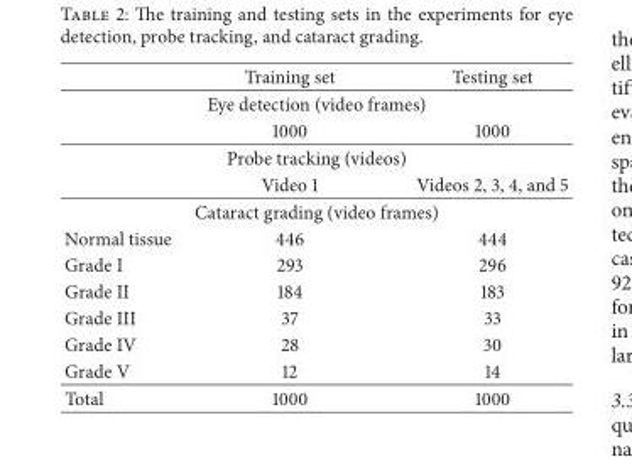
<table><thead><tr><td></td><td>Training set</td><td>Testing set</td></tr></thead><tbody><tr><td colspan="3">Eye detection (video frames)</td></tr><tr><td></td><td>1000</td><td>1000</td></tr><tr><td colspan="3">Probe tracking (videos)</td></tr><tr><td></td><td>Video 1</td><td>Videos 2, 3, 4, and 5</td></tr><tr><td colspan="3">Cataract grading (video frames)</td></tr><tr><td>Normal tissue</td><td>446</td><td>444</td></tr><tr><td>Grade I</td><td>293</td><td>296</td></tr><tr><td>Grade II</td><td>184</td><td>183</td></tr><tr><td>Grade III</td><td>37</td><td>33</td></tr><tr><td>Grade IV</td><td>28</td><td>30</td></tr><tr><td>Grade V</td><td>12</td><td>14</td></tr><tr><td>Total</td><td>1000</td><td>1000</td></tr></tbody></table>